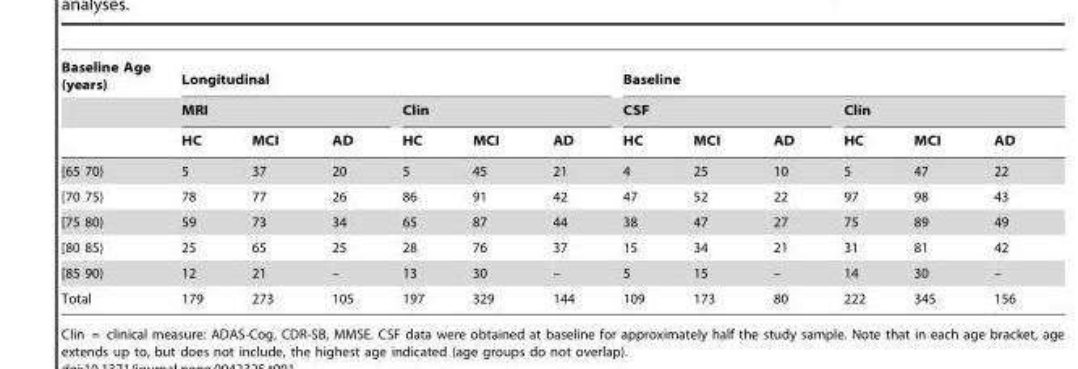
<table><thead><tr><td rowspan="3">Baseline Age (years)</td><td colspan="6">Longitudinal</td><td colspan="6">Baseline</td></tr><tr><td colspan="3">MRI</td><td colspan="3">Clin</td><td colspan="3">CSF</td><td colspan="3">Clin</td></tr><tr><td>HC</td><td>MCI</td><td>AD</td><td>HC</td><td>MCI</td><td>AD</td><td>HC</td><td>MCI</td><td>AD</td><td>HC</td><td>MCI</td><td>AD</td></tr></thead><tbody><tr><td>[65 70)</td><td>5</td><td>37</td><td>20</td><td>5</td><td>45</td><td>21</td><td>4</td><td>25</td><td>10</td><td>5</td><td>47</td><td>22</td></tr><tr><td>[70 75)</td><td>78</td><td>77</td><td>26</td><td>86</td><td>91</td><td>42</td><td>47</td><td>52</td><td>22</td><td>97</td><td>98</td><td>43</td></tr><tr><td>[75 80)</td><td>59</td><td>73</td><td>34</td><td>65</td><td>87</td><td>44</td><td>38</td><td>47</td><td>27</td><td>75</td><td>89</td><td>49</td></tr><tr><td>[80 85)</td><td>25</td><td>65</td><td>25</td><td>28</td><td>76</td><td>37</td><td>15</td><td>34</td><td>21</td><td>31</td><td>81</td><td>42</td></tr><tr><td>[85 90)</td><td>12</td><td>21</td><td>–</td><td>13</td><td>30</td><td>–</td><td>5</td><td>15</td><td>–</td><td>14</td><td>30</td><td>–</td></tr><tr><td>Total</td><td>179</td><td>273</td><td>105</td><td>197</td><td>329</td><td>144</td><td>109</td><td>173</td><td>80</td><td>222</td><td>345</td><td>156</td></tr></tbody></table>